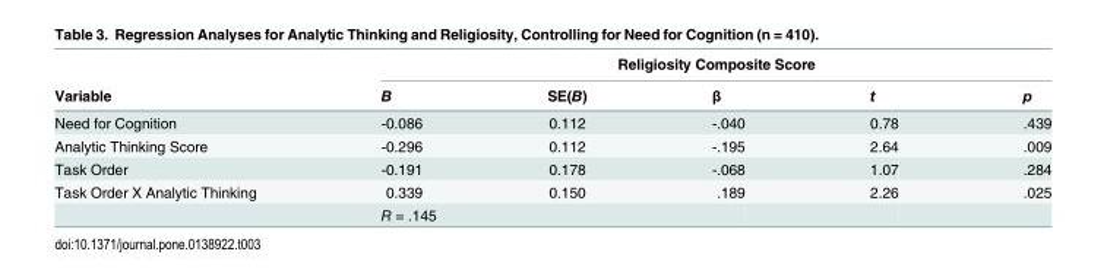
<table><thead><tr><td rowspan="2">Variable</td><td colspan="5">Religiosity Composite Score</td></tr><tr><td>B</td><td>SE(B)</td><td>β</td><td>t</td><td>p</td></tr></thead><tbody><tr><td>Need for Cognition</td><td>-0.086</td><td>0.112</td><td>-.040</td><td>0.78</td><td>.439</td></tr><tr><td>Analytic Thinking Score</td><td>-0.296</td><td>0.112</td><td>-.195</td><td>2.64</td><td>.009</td></tr><tr><td>Task Order</td><td>-0.191</td><td>0.178</td><td>-.068</td><td>1.07</td><td>.284</td></tr><tr><td rowspan="2">Task Order X Analytic Thinking</td><td>0.339</td><td>0.150</td><td>.189</td><td>2.26</td><td>.025</td></tr><tr><td colspan="2">R = .145</td><td></td><td></td><td></td></tr></tbody></table>